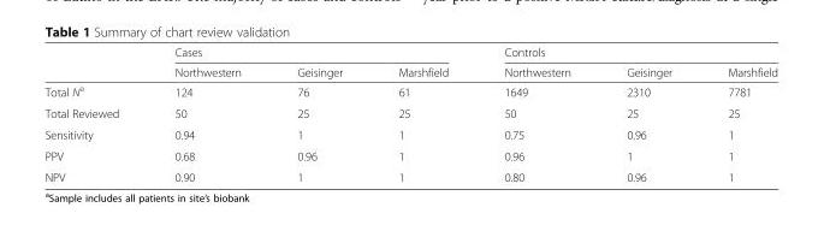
<table><thead><tr><td rowspan="2"></td><td colspan="3">Cases</td><td colspan="3">Controls</td></tr><tr><td>Northwestern</td><td>Geisinger</td><td>Marshfield</td><td>Northwestern</td><td>Geisinger</td><td>Marshfield</td></tr></thead><tbody><tr><td>Total N<sup>a</sup></td><td>124</td><td>76</td><td>61</td><td>1649</td><td>2310</td><td>7781</td></tr><tr><td>Total Reviewed</td><td>50</td><td>25</td><td>25</td><td>50</td><td>25</td><td>25</td></tr><tr><td>Sensitivity</td><td>0.94</td><td>1</td><td>1</td><td>0.75</td><td>0.96</td><td>1</td></tr><tr><td>PPV</td><td>0.68</td><td>0.96</td><td>1</td><td>0.96</td><td>1</td><td>1</td></tr><tr><td>NPV</td><td>0.90</td><td>1</td><td>1</td><td>0.80</td><td>0.96</td><td>1</td></tr></tbody></table>